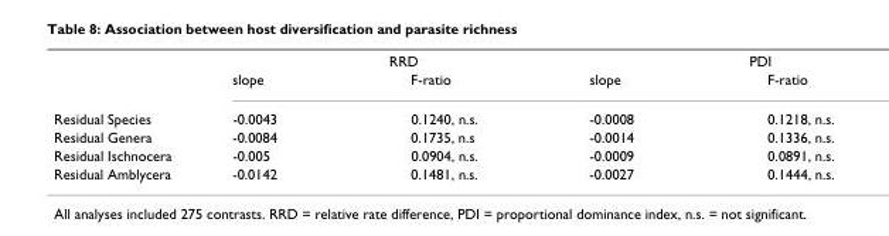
<table><thead><tr><td rowspan="2"></td><td colspan="2">RRD</td><td colspan="2">PDI</td></tr><tr><td>slope</td><td>F-ratio</td><td>slope</td><td>F-ratio</td></tr></thead><tbody><tr><td>Residual Species</td><td>-0.0043</td><td>0.1240, n.s.</td><td>-0.0008</td><td>0.1218, n.s.</td></tr><tr><td>Residual Genera</td><td>-0.0084</td><td>0.1735, n.s</td><td>-0.0014</td><td>0.1336, n.s.</td></tr><tr><td>Residual Ischnocera</td><td>-0.005</td><td>0.0904, n.s.</td><td>-0.0009</td><td>0.0891, n.s.</td></tr><tr><td>Residual Amblycera</td><td>-0.0142</td><td>0.1481, n.s.</td><td>-0.0027</td><td>0.1444, n.s.</td></tr></tbody></table>